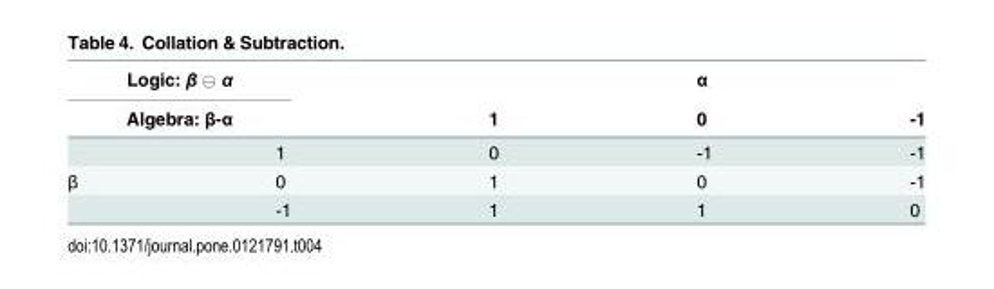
<table><thead><tr><td rowspan="2" colspan="2">Logic: β ⊖ α Algebra: β-α</td><td rowspan="3">1 0</td><td rowspan="3">α 0 -1</td><td rowspan="3">-1 -1</td></tr><tr></tr><tr><td></td><td>1</td></tr></thead><tbody><tr><td rowspan="2">β</td><td>0</td><td>1</td><td>0</td><td>-1</td></tr><tr><td>-1</td><td>1</td><td>1</td><td>0</td></tr></tbody></table>